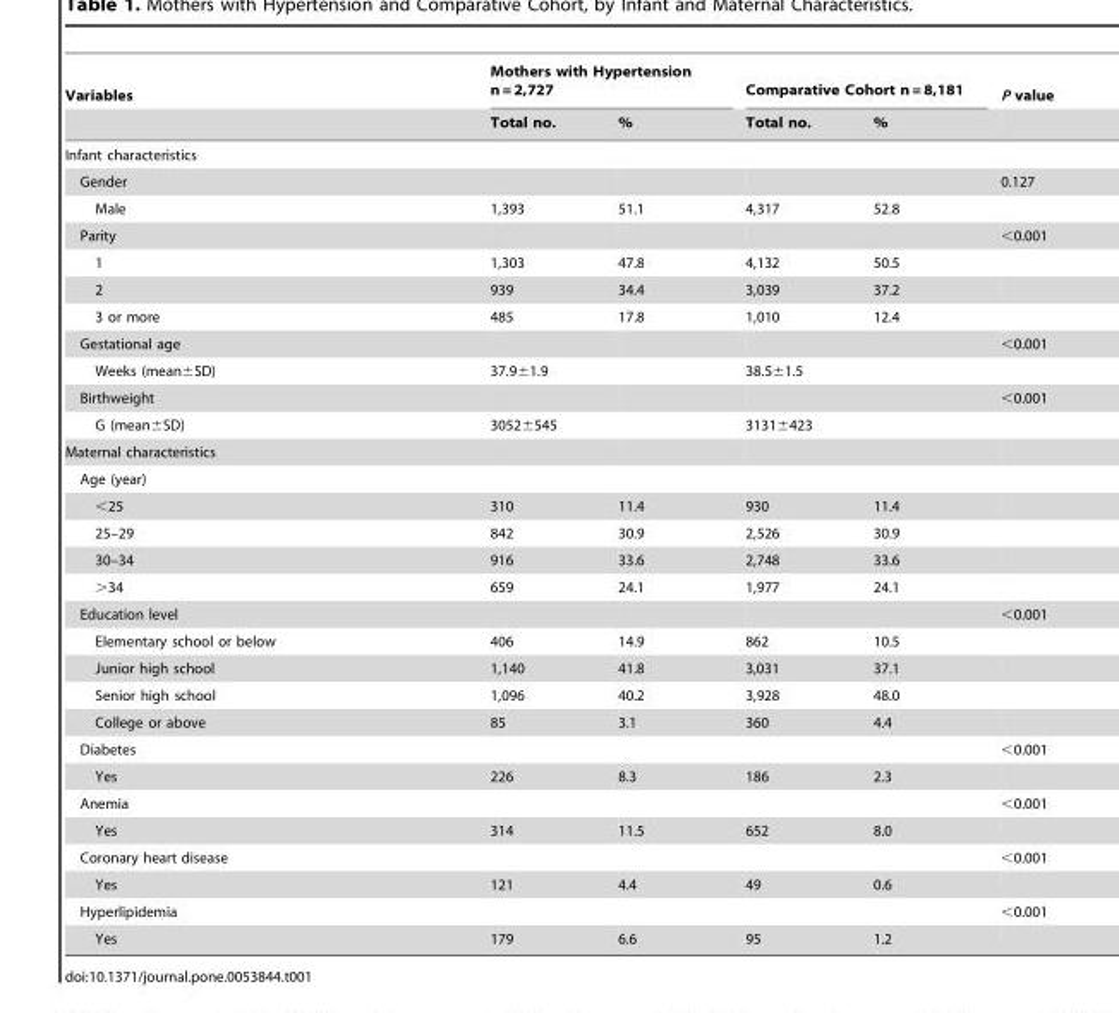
<table><thead><tr><td rowspan="2">Variables</td><td colspan="2">Mothers with Hypertension n = 2,727</td><td colspan="2">Comparative Cohort n = 8,181</td><td rowspan="2">P value</td></tr><tr><td>Total no.</td><td>%</td><td>Total no.</td><td>%</td></tr></thead><tbody><tr><td colspan="6">Infant characteristics</td></tr><tr><td>Gender</td><td></td><td></td><td></td><td></td><td>0.127</td></tr><tr><td>Male</td><td>1,393</td><td>51.1</td><td>4,317</td><td>52.8</td><td></td></tr><tr><td>Parity</td><td></td><td></td><td></td><td></td><td>&lt;0.001</td></tr><tr><td>1</td><td>1,303</td><td>47.8</td><td>4,132</td><td>50.5</td><td></td></tr><tr><td>2</td><td>939</td><td>34.4</td><td>3,039</td><td>37.2</td><td></td></tr><tr><td>3 or more</td><td>485</td><td>17.8</td><td>1,010</td><td>12.4</td><td></td></tr><tr><td>Gestational age</td><td></td><td></td><td></td><td></td><td>&lt;0.001</td></tr><tr><td>Weeks (mean±SD)</td><td colspan="2">37.9±1.9</td><td colspan="2">38.5±1.5</td><td></td></tr><tr><td>Birthweight</td><td></td><td></td><td></td><td></td><td>&lt;0.001</td></tr><tr><td>G (mean±SD)</td><td colspan="2">3052±545</td><td colspan="2">3131±423</td><td></td></tr><tr><td colspan="6">Maternal characteristics</td></tr><tr><td colspan="6">Age (year)</td></tr><tr><td>&lt;25</td><td>310</td><td>11.4</td><td>930</td><td>11.4</td><td></td></tr><tr><td>25–29</td><td>842</td><td>30.9</td><td>2,526</td><td>30.9</td><td></td></tr><tr><td>30–34</td><td>916</td><td>33.6</td><td>2,748</td><td>33.6</td><td></td></tr><tr><td>&gt;34</td><td>659</td><td>24.1</td><td>1,977</td><td>24.1</td><td></td></tr><tr><td>Education level</td><td></td><td></td><td></td><td></td><td>&lt;0.001</td></tr><tr><td>Elementary school or below</td><td>406</td><td>14.9</td><td>862</td><td>10.5</td><td></td></tr><tr><td>Junior high school</td><td>1,140</td><td>41.8</td><td>3,031</td><td>37.1</td><td></td></tr><tr><td>Senior high school</td><td>1,096</td><td>40.2</td><td>3,928</td><td>48.0</td><td></td></tr><tr><td>College or above</td><td>85</td><td>3.1</td><td>360</td><td>4.4</td><td></td></tr><tr><td>Diabetes</td><td></td><td></td><td></td><td></td><td>&lt;0.001</td></tr><tr><td>Yes</td><td>226</td><td>8.3</td><td>186</td><td>2.3</td><td></td></tr><tr><td>Anemia</td><td></td><td></td><td></td><td></td><td>&lt;0.001</td></tr><tr><td>Yes</td><td>314</td><td>11.5</td><td>652</td><td>8.0</td><td></td></tr><tr><td>Coronary heart disease</td><td></td><td></td><td></td><td></td><td>&lt;0.001</td></tr><tr><td>Yes</td><td>121</td><td>4.4</td><td>49</td><td>0.6</td><td></td></tr><tr><td>Hyperlipidemia</td><td></td><td></td><td></td><td></td><td>&lt;0.001</td></tr><tr><td>Yes</td><td>179</td><td>6.6</td><td>95</td><td>1.2</td><td></td></tr></tbody></table>